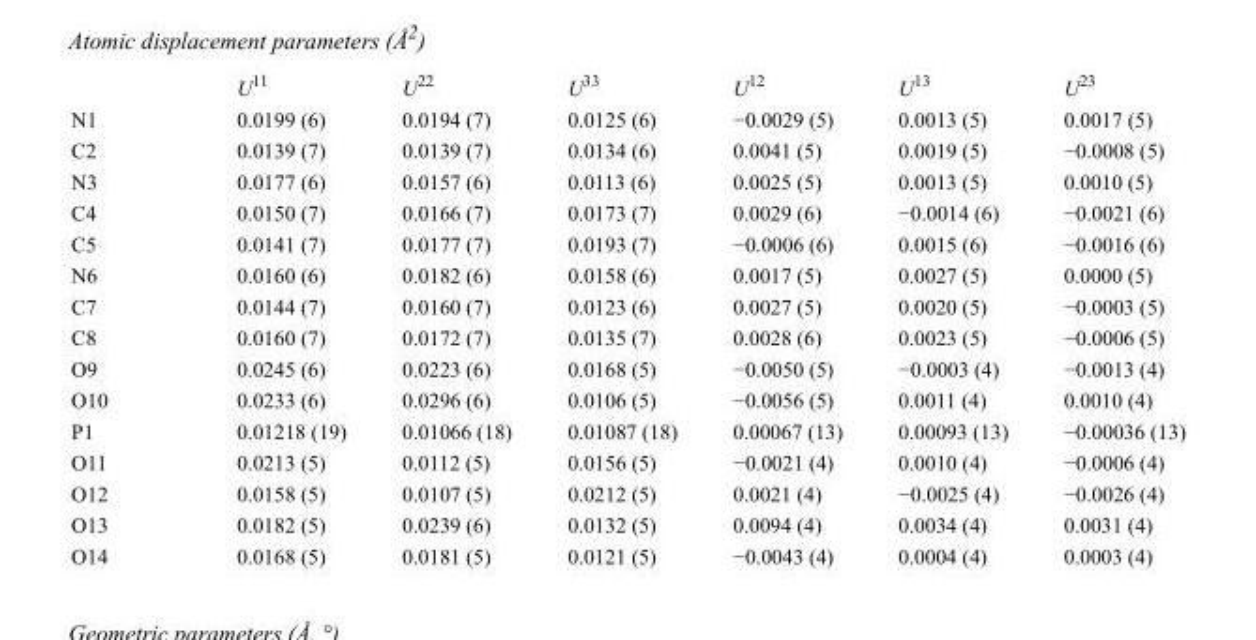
<table><thead><tr><td></td><td>U<sup>11</sup></td><td>U<sup>22</sup></td><td>U<sup>33</sup></td><td>U<sup>12</sup></td><td>U<sup>13</sup></td><td>U<sup>23</sup></td></tr></thead><tbody><tr><td>N1</td><td>0.0199 (6)</td><td>0.0194 (7)</td><td>0.0125 (6)</td><td>−0.0029 (5)</td><td>0.0013 (5)</td><td>0.0017 (5)</td></tr><tr><td>C2</td><td>0.0139 (7)</td><td>0.0139 (7)</td><td>0.0134 (6)</td><td>0.0041 (5)</td><td>0.0019 (5)</td><td>−0.0008 (5)</td></tr><tr><td>N3</td><td>0.0177 (6)</td><td>0.0157 (6)</td><td>0.0113 (6)</td><td>0.0025 (5)</td><td>0.0013 (5)</td><td>0.0010 (5)</td></tr><tr><td>C4</td><td>0.0150 (7)</td><td>0.0166 (7)</td><td>0.0173 (7)</td><td>0.0029 (6)</td><td>−0.0014 (6)</td><td>−0.0021 (6)</td></tr><tr><td>C5</td><td>0.0141 (7)</td><td>0.0177 (7)</td><td>0.0193 (7)</td><td>−0.0006 (6)</td><td>0.0015 (6)</td><td>−0.0016 (6)</td></tr><tr><td>N6</td><td>0.0160 (6)</td><td>0.0182 (6)</td><td>0.0158 (6)</td><td>0.0017 (5)</td><td>0.0027 (5)</td><td>0.0000 (5)</td></tr><tr><td>C7</td><td>0.0144 (7)</td><td>0.0160 (7)</td><td>0.0123 (6)</td><td>0.0027 (5)</td><td>0.0020 (5)</td><td>−0.0003 (5)</td></tr><tr><td>C8</td><td>0.0160 (7)</td><td>0.0172 (7)</td><td>0.0135 (7)</td><td>0.0028 (6)</td><td>0.0023 (5)</td><td>−0.0006 (5)</td></tr><tr><td>O9</td><td>0.0245 (6)</td><td>0.0223 (6)</td><td>0.0168 (5)</td><td>−0.0050 (5)</td><td>−0.0003 (4)</td><td>−0.0013 (4)</td></tr><tr><td>O10</td><td>0.0233 (6)</td><td>0.0296 (6)</td><td>0.0106 (5)</td><td>−0.0056 (5)</td><td>0.0011 (4)</td><td>0.0010 (4)</td></tr><tr><td>P1</td><td>0.01218 (19)</td><td>0.01066 (18)</td><td>0.01087 (18)</td><td>0.00067 (13)</td><td>0.00093 (13)</td><td>−0.00036 (13)</td></tr><tr><td>O11</td><td>0.0213 (5)</td><td>0.0112 (5)</td><td>0.0156 (5)</td><td>−0.0021 (4)</td><td>0.0010 (4)</td><td>−0.0006 (4)</td></tr><tr><td>O12</td><td>0.0158 (5)</td><td>0.0107 (5)</td><td>0.0212 (5)</td><td>0.0021 (4)</td><td>−0.0025 (4)</td><td>−0.0026 (4)</td></tr><tr><td>O13</td><td>0.0182 (5)</td><td>0.0239 (6)</td><td>0.0132 (5)</td><td>0.0094 (4)</td><td>0.0034 (4)</td><td>0.0031 (4)</td></tr><tr><td>O14</td><td>0.0168 (5)</td><td>0.0181 (5)</td><td>0.0121 (5)</td><td>−0.0043 (4)</td><td>0.0004 (4)</td><td>0.0003 (4)</td></tr></tbody></table>